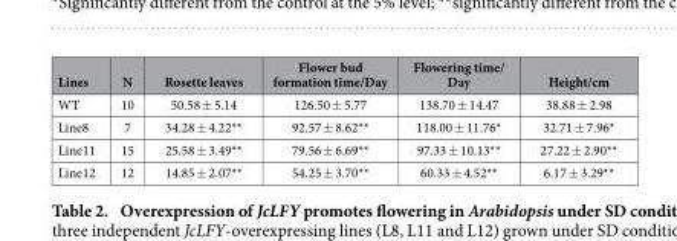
<table><thead><tr><td>Lines</td><td>N</td><td>Rosette leaves</td><td>Flower bud formation time/Day</td><td>Flowering time/ Day</td><td>Height/cm</td></tr></thead><tbody><tr><td>WT</td><td>10</td><td>50.58 ± 5.14</td><td>126.50 ± 5.77</td><td>138.70 ± 14.47</td><td>38.88 ± 2.98</td></tr><tr><td>Line8</td><td>7</td><td>34.28 ± 4.22**</td><td>92.57 ± 8.62**</td><td>118.00 ± 11.76*</td><td>32.71 ± 7.96*</td></tr><tr><td>Line11</td><td>15</td><td>25.58 ± 3.49**</td><td>79.56 ± 6.69**</td><td>97.33 ± 10.13**</td><td>27.22 ± 2.90**</td></tr><tr><td>Line12</td><td>12</td><td>14.85 ± 2.07**</td><td>54.25 ± 3.70**</td><td>60.33 ± 4.52**</td><td>6.17 ± 3.29**</td></tr></tbody></table>